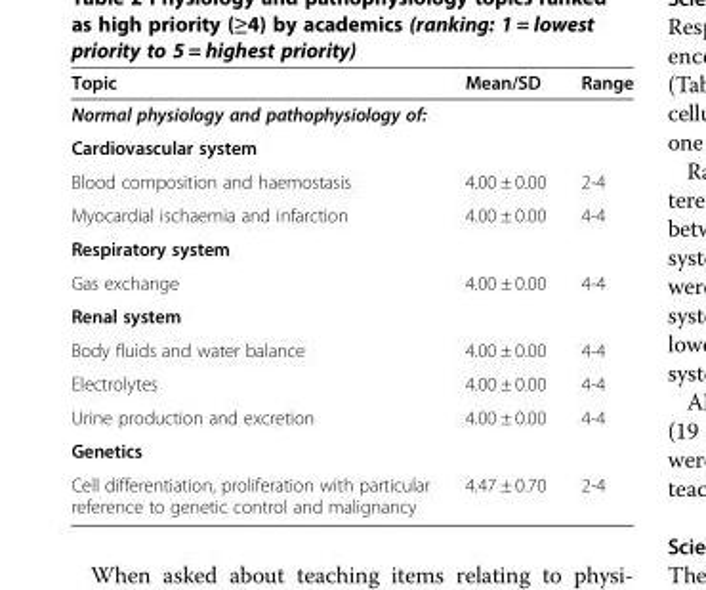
<table><thead><tr><td>Topic</td><td>Mean/SD</td><td>Range</td></tr></thead><tbody><tr><td colspan="3">Normal physiology and pathophysiology of:</td></tr><tr><td colspan="3">Cardiovascular system</td></tr><tr><td>Blood composition and haemostasis</td><td>4.00 ± 0.00</td><td>2-4</td></tr><tr><td>Myocardial ischaemia and infarction</td><td>4.00 ± 0.00</td><td>4-4</td></tr><tr><td colspan="3">Respiratory system</td></tr><tr><td>Gas exchange</td><td>4.00 ± 0.00</td><td>4-4</td></tr><tr><td colspan="3">Renal system</td></tr><tr><td>Body fluids and water balance</td><td>4.00 ± 0.00</td><td>4-4</td></tr><tr><td>Electrolytes</td><td>4.00 ± 0.00</td><td>4-4</td></tr><tr><td>Urine production and excretion</td><td>4.00 ± 0.00</td><td>4-4</td></tr><tr><td colspan="3">Genetics</td></tr><tr><td>Cell differentiation, proliferation with particular reference to genetic control and malignancy</td><td>4.47 ± 0.70</td><td>2-4</td></tr></tbody></table>